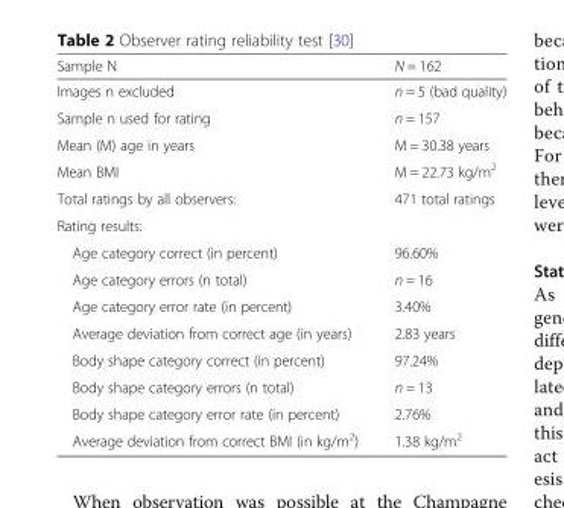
<table><thead><tr><td>Sample N</td><td>N = 162</td></tr></thead><tbody><tr><td>Images n excluded</td><td>n = 5 (bad quality)</td></tr><tr><td>Sample n used for rating</td><td>n = 157</td></tr><tr><td>Mean (M) age in years</td><td>M = 30.38 years</td></tr><tr><td>Mean BMI</td><td>M = 22.73 kg/m<sup>2</sup></td></tr><tr><td>Total ratings by all observers:</td><td>471 total ratings</td></tr><tr><td colspan="2">Rating results:</td></tr><tr><td>Age category correct (in percent)</td><td>96.60%</td></tr><tr><td>Age category errors (n total)</td><td>n = 16</td></tr><tr><td>Age category error rate (in percent)</td><td>3.40%</td></tr><tr><td>Average deviation from correct age (in years)</td><td>2.83 years</td></tr><tr><td>Body shape category correct (in percent)</td><td>97.24%</td></tr><tr><td>Body shape category errors (n total)</td><td>n = 13</td></tr><tr><td>Body shape category error rate (in percent)</td><td>2.76%</td></tr><tr><td>Average deviation from correct BMI (in kg/m<sup>2</sup>)</td><td>1.38 kg/m<sup>2</sup></td></tr></tbody></table>